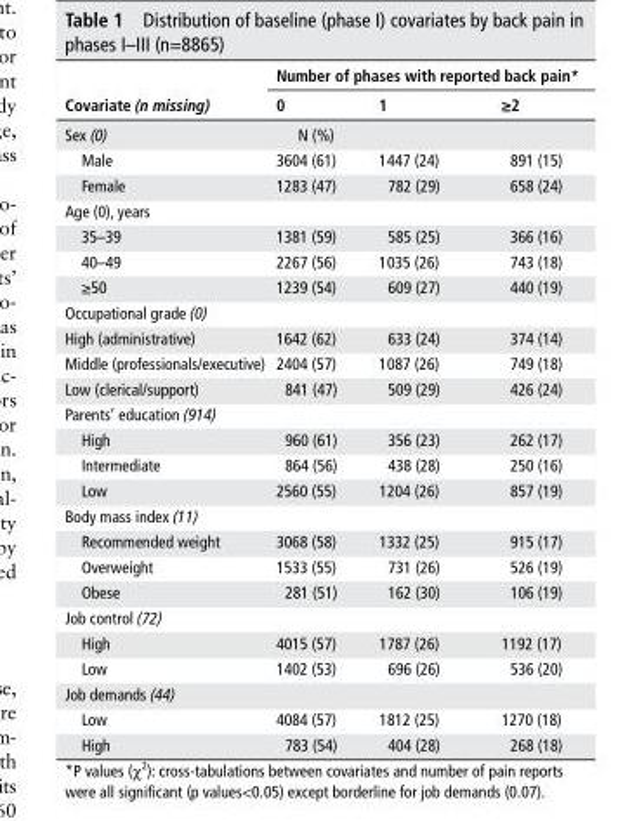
<table><thead><tr><td rowspan="2">Covariate (n missing)</td><td colspan="3">number of phases with reported back pain*</td></tr><tr><td>0</td><td>1</td><td>≥2</td></tr></thead><tbody><tr><td>Sex (0)</td><td colspan="3">N (%)</td></tr><tr><td>Male</td><td>3604 (61)</td><td>1447 (24)</td><td>891 (15)</td></tr><tr><td>Female</td><td>1283 (47)</td><td>782 (29)</td><td>658 (24)</td></tr><tr><td colspan="4">Age (0), years</td></tr><tr><td>35–39</td><td>1381 (59)</td><td>585 (25)</td><td>366 (16)</td></tr><tr><td>40–49</td><td>2267 (56)</td><td>1035 (26)</td><td>743 (18)</td></tr><tr><td>≥50</td><td>1239 (54)</td><td>609 (27)</td><td>440 (19)</td></tr><tr><td colspan="4">Occupational grade (0)</td></tr><tr><td>High (administrative)</td><td>1642 (62)</td><td>633 (24)</td><td>374 (14)</td></tr><tr><td>Middle (professionals/executive)</td><td>2404 (57)</td><td>1087 (26)</td><td>749 (18)</td></tr><tr><td>Low (clerical/support)</td><td>841 (47)</td><td>509 (29)</td><td>426 (24)</td></tr><tr><td colspan="4">Parents’ education (914)</td></tr><tr><td>High</td><td>960 (61)</td><td>356 (23)</td><td>262 (17)</td></tr><tr><td>Intermediate</td><td>864 (56)</td><td>438 (28)</td><td>250 (16)</td></tr><tr><td>Low</td><td>2560 (55)</td><td>1204 (26)</td><td>857 (19)</td></tr><tr><td colspan="4">Body mass index (11)</td></tr><tr><td>Recommended weight</td><td>3068 (58)</td><td>1332 (25)</td><td>915 (17)</td></tr><tr><td>Overweight</td><td>1533 (55)</td><td>731 (26)</td><td>526 (19)</td></tr><tr><td>Obese</td><td>281 (51)</td><td>162 (30)</td><td>106 (19)</td></tr><tr><td colspan="4">Job control (72)</td></tr><tr><td>High</td><td>4015 (57)</td><td>1787 (26)</td><td>1192 (17)</td></tr><tr><td>Low</td><td>1402 (53)</td><td>696 (26)</td><td>536 (20)</td></tr><tr><td colspan="4">Job demands (44)</td></tr><tr><td>Low</td><td>4084 (57)</td><td>1812 (25)</td><td>1270 (18)</td></tr><tr><td>High</td><td>783 (54)</td><td>404 (28)</td><td>268 (18)</td></tr></tbody></table>